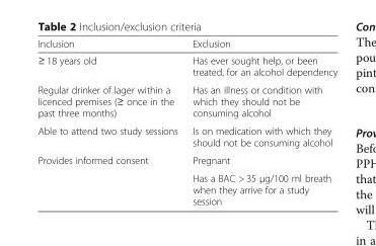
<table><thead><tr><td>Inclusion</td><td>Exclusion</td></tr></thead><tbody><tr><td>≥ 18 years old</td><td>Has ever sought help, or been treated, for an alcohol dependency</td></tr><tr><td>Regular drinker of lager within a licenced premises (≥ once in the past three months)</td><td>Has an illness or condition with which they should not be consuming alcohol</td></tr><tr><td>Able to attend two study sessions</td><td>Is on medication with which they should not be consuming alcohol</td></tr><tr><td rowspan="2">Provides informed consent</td><td>Pregnant</td></tr><tr><td>Has a BAC &gt; 35 μg/100 ml breath when they arrive for a study session</td></tr></tbody></table>